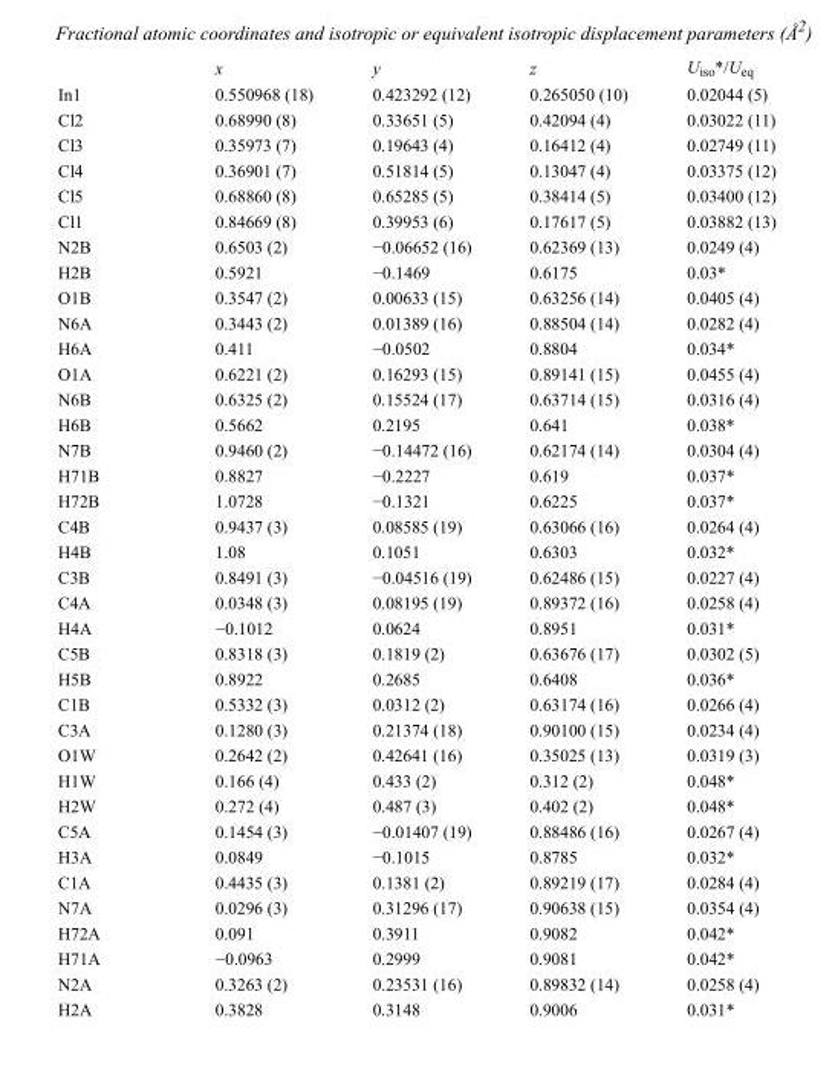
<table><thead><tr><td></td><td>x</td><td>y</td><td>z</td><td>U<sub>iso</sub>*/U<sub>eq</sub></td></tr></thead><tbody><tr><td>In1</td><td>0.550968 (18)</td><td>0.423292 (12)</td><td>0.265050 (10)</td><td>0.02044 (5)</td></tr><tr><td>Cl2</td><td>0.68990 (8)</td><td>0.33651 (5)</td><td>0.42094 (4)</td><td>0.03022 (11)</td></tr><tr><td>Cl3</td><td>0.35973 (7)</td><td>0.19643 (4)</td><td>0.16412 (4)</td><td>0.02749 (11)</td></tr><tr><td>Cl4</td><td>0.36901 (7)</td><td>0.51814 (5)</td><td>0.13047 (4)</td><td>0.03375 (12)</td></tr><tr><td>Cl5</td><td>0.68860 (8)</td><td>0.65285 (5)</td><td>0.38414 (5)</td><td>0.03400 (12)</td></tr><tr><td>Cl1</td><td>0.84669 (8)</td><td>0.39953 (6)</td><td>0.17617 (5)</td><td>0.03882 (13)</td></tr><tr><td>N2B</td><td>0.6503 (2)</td><td>−0.06652 (16)</td><td>0.62369 (13)</td><td>0.0249 (4)</td></tr><tr><td>H2B</td><td>0.5921</td><td>−0.1469</td><td>0.6175</td><td>0.03*</td></tr><tr><td>O1B</td><td>0.3547 (2)</td><td>0.00633 (15)</td><td>0.63256 (14)</td><td>0.0405 (4)</td></tr><tr><td>N6A</td><td>0.3443 (2)</td><td>0.01389 (16)</td><td>0.88504 (14)</td><td>0.0282 (4)</td></tr><tr><td>H6A</td><td>0.411</td><td>−0.0502</td><td>0.8804</td><td>0.034*</td></tr><tr><td>O1A</td><td>0.6221 (2)</td><td>0.16293 (15)</td><td>0.89141 (15)</td><td>0.0455 (4)</td></tr><tr><td>N6B</td><td>0.6325 (2)</td><td>0.15524 (17)</td><td>0.63714 (15)</td><td>0.0316 (4)</td></tr><tr><td>H6B</td><td>0.5662</td><td>0.2195</td><td>0.641</td><td>0.038*</td></tr><tr><td>N7B</td><td>0.9460 (2)</td><td>−0.14472 (16)</td><td>0.62174 (14)</td><td>0.0304 (4)</td></tr><tr><td>H71B</td><td>0.8827</td><td>−0.2227</td><td>0.619</td><td>0.037*</td></tr><tr><td>H72B</td><td>1.0728</td><td>−0.1321</td><td>0.6225</td><td>0.037*</td></tr><tr><td>C4B</td><td>0.9437 (3)</td><td>0.08585 (19)</td><td>0.63066 (16)</td><td>0.0264 (4)</td></tr><tr><td>H4B</td><td>1.08</td><td>0.1051</td><td>0.6303</td><td>0.032*</td></tr><tr><td>C3B</td><td>0.8491 (3)</td><td>−0.04516 (19)</td><td>0.62486 (15)</td><td>0.0227 (4)</td></tr><tr><td>C4A</td><td>0.0348 (3)</td><td>0.08195 (19)</td><td>0.89372 (16)</td><td>0.0258 (4)</td></tr><tr><td>H4A</td><td>−0.1012</td><td>0.0624</td><td>0.8951</td><td>0.031*</td></tr><tr><td>C5B</td><td>0.8318 (3)</td><td>0.1819 (2)</td><td>0.63676 (17)</td><td>0.0302 (5)</td></tr><tr><td>H5B</td><td>0.8922</td><td>0.2685</td><td>0.6408</td><td>0.036*</td></tr><tr><td>C1B</td><td>0.5332 (3)</td><td>0.0312 (2)</td><td>0.63174 (16)</td><td>0.0266 (4)</td></tr><tr><td>C3A</td><td>0.1280 (3)</td><td>0.21374 (18)</td><td>0.90100 (15)</td><td>0.0234 (4)</td></tr><tr><td>O1W</td><td>0.2642 (2)</td><td>0.42641 (16)</td><td>0.35025 (13)</td><td>0.0319 (3)</td></tr><tr><td>H1W</td><td>0.166 (4)</td><td>0.433 (2)</td><td>0.312 (2)</td><td>0.048*</td></tr><tr><td>H2W</td><td>0.272 (4)</td><td>0.487 (3)</td><td>0.402 (2)</td><td>0.048*</td></tr><tr><td>C5A</td><td>0.1454 (3)</td><td>−0.01407 (19)</td><td>0.88486 (16)</td><td>0.0267 (4)</td></tr><tr><td>H3A</td><td>0.0849</td><td>−0.1015</td><td>0.8785</td><td>0.032*</td></tr><tr><td>C1A</td><td>0.4435 (3)</td><td>0.1381 (2)</td><td>0.89219 (17)</td><td>0.0284 (4)</td></tr><tr><td>N7A</td><td>0.0296 (3)</td><td>0.31296 (17)</td><td>0.90638 (15)</td><td>0.0354 (4)</td></tr><tr><td>H72A</td><td>0.091</td><td>0.3911</td><td>0.9082</td><td>0.042*</td></tr><tr><td>H71A</td><td>−0.0963</td><td>0.2999</td><td>0.9081</td><td>0.042*</td></tr><tr><td>N2A</td><td>0.3263 (2)</td><td>0.23531 (16)</td><td>0.89832 (14)</td><td>0.0258 (4)</td></tr><tr><td>H2A</td><td>0.3828</td><td>0.3148</td><td>0.9006</td><td>0.031*</td></tr></tbody></table>